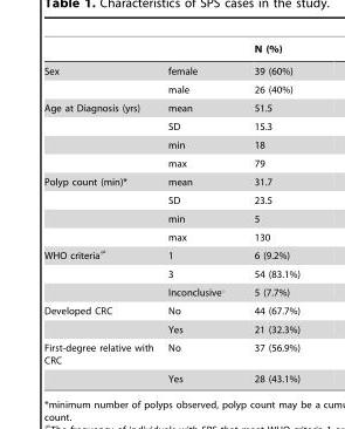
<table><thead><tr><td></td><td></td><td>N (%)</td></tr></thead><tbody><tr><td rowspan="2">Sex</td><td>female</td><td>39 (60%)</td></tr><tr><td>male</td><td>26 (40%)</td></tr><tr><td rowspan="4">Age at Diagnosis (yrs)</td><td>mean</td><td>51.5</td></tr><tr><td>SD</td><td>15.3</td></tr><tr><td>min</td><td>18</td></tr><tr><td>max</td><td>79</td></tr><tr><td rowspan="4">Polyp count (min)*</td><td>mean</td><td>31.7</td></tr><tr><td>SD</td><td>23.5</td></tr><tr><td>min</td><td>5</td></tr><tr><td>max</td><td>130</td></tr><tr><td rowspan="3">WHO criteria≠</td><td>1</td><td>6 (9.2%)</td></tr><tr><td>3</td><td>54 (83.1%)</td></tr><tr><td>Inconclusive‘</td><td>5 (7.7%)</td></tr><tr><td rowspan="2">Developed CRC</td><td>No</td><td>44 (67.7%)</td></tr><tr><td>Yes</td><td>21 (32.3%)</td></tr><tr><td rowspan="2">First-degree relative with CRC</td><td>No</td><td>37 (56.9%)</td></tr><tr><td>Yes</td><td>28 (43.1%)</td></tr></tbody></table>